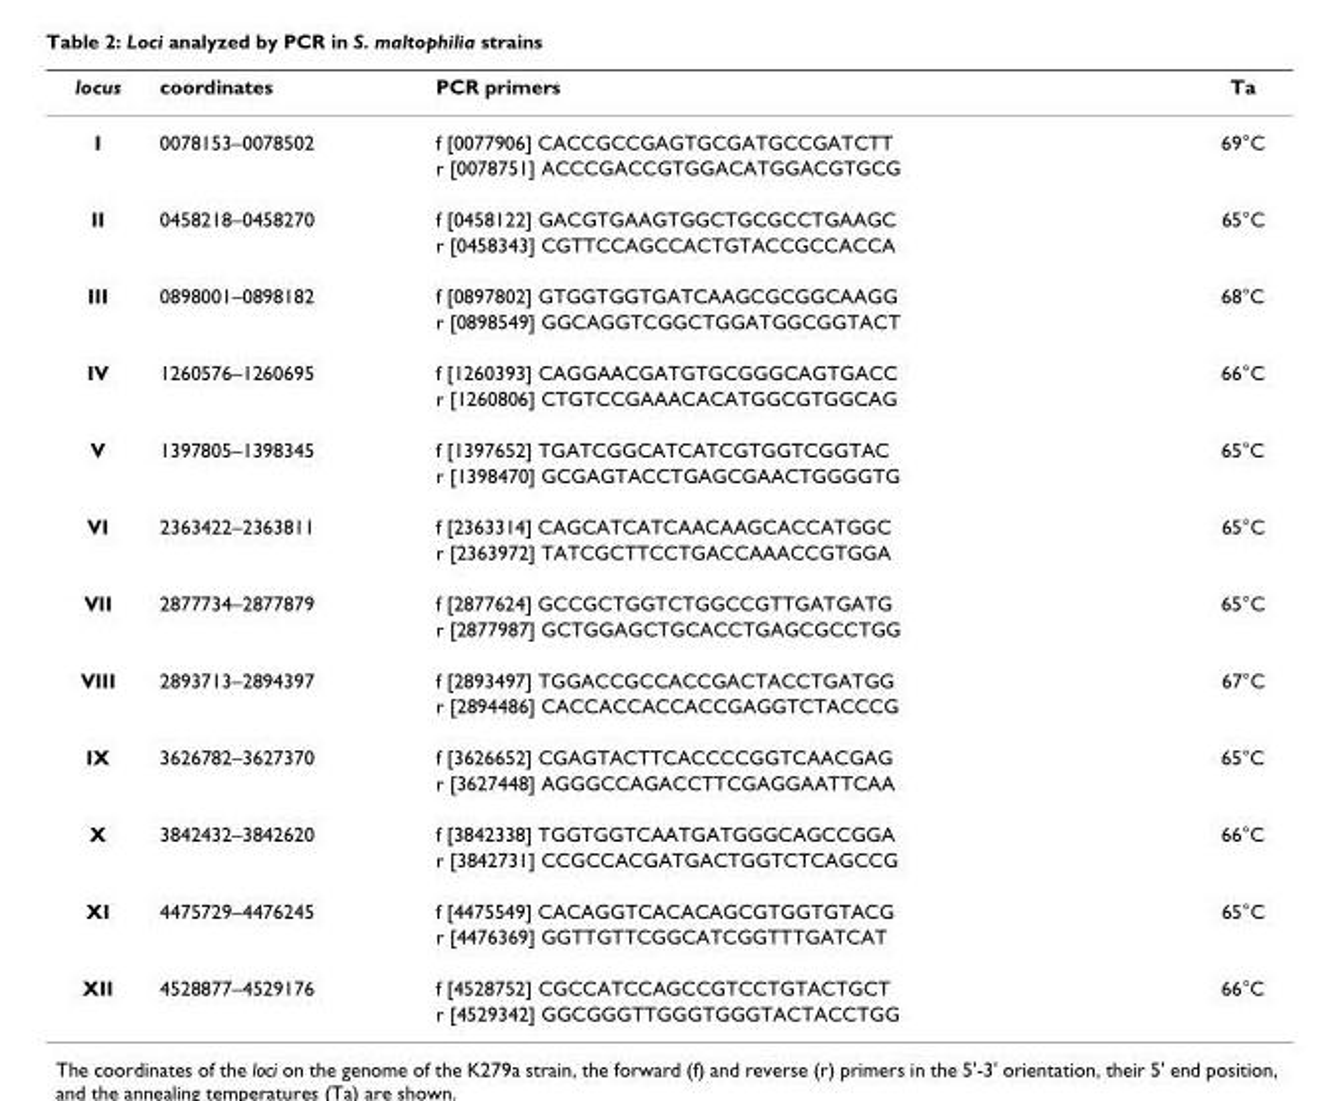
<table><thead><tr><td>locus</td><td>coordinates</td><td>PCR primers</td><td>Ta</td></tr></thead><tbody><tr><td rowspan="2">I</td><td>0078153–0078502</td><td>f [0077906] CACCGCCGAGTGCGATGCCGATCTT</td><td>69°C</td></tr><tr><td></td><td>r [0078751] ACCCGACCGTGGACATGGACGTGCG</td><td></td></tr><tr><td rowspan="2">II</td><td>0458218–0458270</td><td>f [0458122] GACGTGAAGTGGCTGCGCCTGAAGC</td><td>65°C</td></tr><tr><td></td><td>r [0458343] CGTTCCAGCCACTGTACCGCCACCA</td><td></td></tr><tr><td rowspan="2">III</td><td>0898001–0898182</td><td>f [0897802] GTGGTGGTGATCAAGCGCGGCAAGG</td><td>68°C</td></tr><tr><td></td><td>r [0898549] GGCAGGTCGGCTGGATGGCGGTACT</td><td></td></tr><tr><td rowspan="2">IV</td><td>1260576–1260695</td><td>f [1260393] CAGGAACGATGTGCGGGCAGTGACC</td><td>66°C</td></tr><tr><td></td><td>r [1260806] CTGTCCGAAACACATGGCGTGGCAG</td><td></td></tr><tr><td rowspan="2">V</td><td>1397805–1398345</td><td>f [1397652] TGATCGGCATCATCGTGGTCGGTAC</td><td>65°C</td></tr><tr><td></td><td>r [1398470] GCGAGTACCTGAGCGAACTGGGGTG</td><td></td></tr><tr><td rowspan="2">VI</td><td>2363422–2363811</td><td>f [2363314] CAGCATCATCAACAAGCACCATGGC</td><td>65°C</td></tr><tr><td></td><td>r [2363972] TATCGCTTCCTGACCAAACCGTGGA</td><td></td></tr><tr><td rowspan="2">VII</td><td>2877734–2877879</td><td>f [2877624] GCCGCTGGTCTGGCCGTTGATGATG</td><td>65°C</td></tr><tr><td></td><td>r [2877987] GCTGGAGCTGCACCTGAGCGCCTGG</td><td></td></tr><tr><td rowspan="2">VIII</td><td>2893713–2894397</td><td>f [2893497] TGGACCGCCACCGACTACCTGATGG</td><td>67°C</td></tr><tr><td></td><td>r [2894486] CACCACCACCACCGAGGTCTACCCG</td><td></td></tr><tr><td rowspan="2">IX</td><td>3626782–3627370</td><td>f [3626652] CGAGTACTTCACCCCGGTCAACGAG</td><td>65°C</td></tr><tr><td></td><td>r [3627448] AGGGCCAGACCTTCGAGGAATTCAA</td><td></td></tr><tr><td rowspan="2">X</td><td>3842432–3842620</td><td>f [3842338] TGGTGGTCAATGATGGGCAGCCGGA</td><td>66°C</td></tr><tr><td></td><td>r [3842731] CCGCCACGATGACTGGTCTCAGCCG</td><td></td></tr><tr><td rowspan="2">XI</td><td>4475729–4476245</td><td>f [4475549] CACAGGTCACACAGCGTGGTGTACG</td><td>65°C</td></tr><tr><td></td><td>r [4476369] GGTTGTTCGGCATCGGTTTGATCAT</td><td></td></tr><tr><td rowspan="2">XII</td><td>4528877–4529176</td><td>f [4528752] CGCCATCCAGCCGTCCTGTACTGCT</td><td>66°C</td></tr><tr><td></td><td>r [4529342] GGCGGGTTGGGTGGGTACTACCTGG</td><td></td></tr></tbody></table>